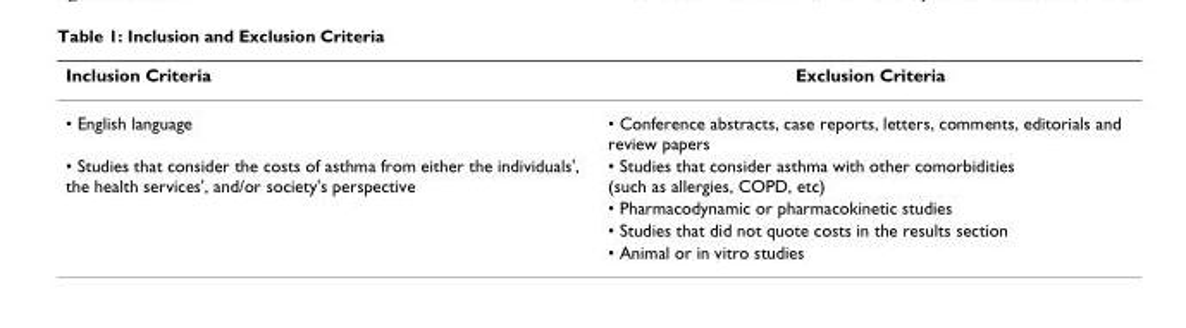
<table><thead><tr><td>Inclusion Criteria</td><td>Exclusion Criteria</td></tr></thead><tbody><tr><td>• English language</td><td>• Conference abstracts, case reports, letters, comments, editorials and review papers</td></tr><tr><td rowspan="4">• Studies that consider the costs of asthma from either the individuals&#x27;, the health services&#x27;, and/or society&#x27;s perspective</td><td>• Studies that consider asthma with other comorbidities (such as allergies, COPD, etc)</td></tr><tr><td>• Pharmacodynamic or pharmacokinetic studies</td></tr><tr><td>• Studies that did not quote costs in the results section</td></tr><tr><td>• Animal or in vitro studies</td></tr></tbody></table>